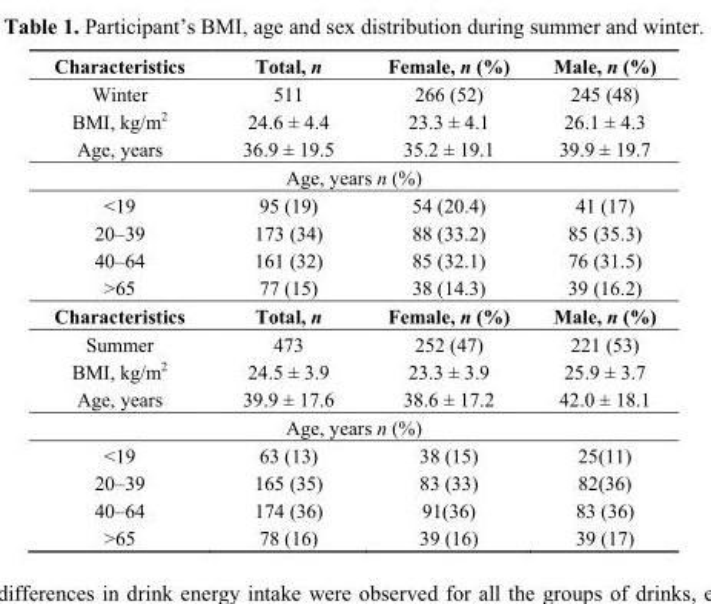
<table><thead><tr><td>Characteristics</td><td>Total, n</td><td>Female, n (%)</td><td>Male, n (%)</td></tr></thead><tbody><tr><td>Winter</td><td>511</td><td>266 (52)</td><td>245 (48)</td></tr><tr><td>BMI, kg/m<sup>2</sup></td><td>24.6 ± 4.4</td><td>23.3 ± 4.1</td><td>26.1 ± 4.3</td></tr><tr><td>Age, years</td><td>36.9 ± 19.5</td><td>35.2 ± 19.1</td><td>39.9 ± 19.7</td></tr><tr><td colspan="4">Age, years n (%)</td></tr><tr><td>&lt;19</td><td>95 (19)</td><td>54 (20.4)</td><td>41 (17)</td></tr><tr><td>20–39</td><td>173 (34)</td><td>88 (33.2)</td><td>85 (35.3)</td></tr><tr><td>40–64</td><td>161 (32)</td><td>85 (32.1)</td><td>76 (31.5)</td></tr><tr><td>&gt;65</td><td>77 (15)</td><td>38 (14.3)</td><td>39 (16.2)</td></tr><tr><td>Characteristics</td><td>Total, n</td><td>Female, n (%)</td><td>Male, n (%)</td></tr><tr><td>Summer</td><td>473</td><td>252 (47)</td><td>221 (53)</td></tr><tr><td>BMI, kg/m<sup>2</sup></td><td>24.5 ± 3.9</td><td>23.3 ± 3.9</td><td>25.9 ± 3.7</td></tr><tr><td>Age, years</td><td>39.9 ± 17.6</td><td>38.6 ± 17.2</td><td>42.0 ± 18.1</td></tr><tr><td colspan="4">Age, years n (%)</td></tr><tr><td>&lt;19</td><td>63 (13)</td><td>38 (15)</td><td>25(11)</td></tr><tr><td>20–39</td><td>165 (35)</td><td>83 (33)</td><td>82(36)</td></tr><tr><td>40–64</td><td>174 (36)</td><td>91(36)</td><td>83 (36)</td></tr><tr><td>&gt;65</td><td>78 (16)</td><td>39 (16)</td><td>39 (17)</td></tr></tbody></table>